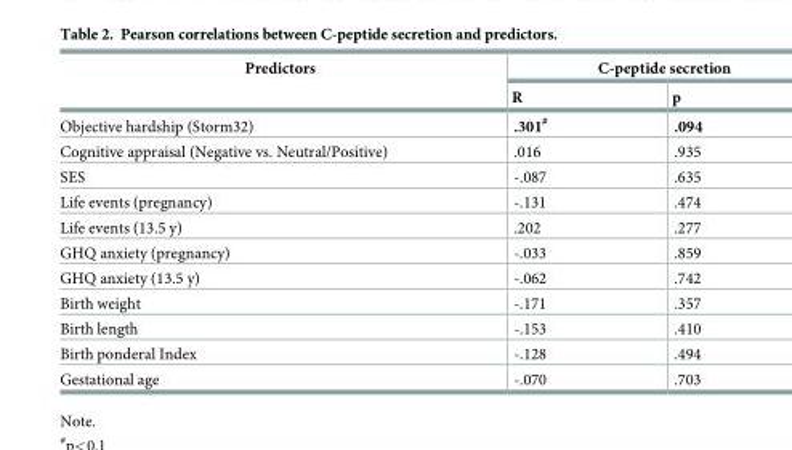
<table><thead><tr><td rowspan="2">Predictors</td><td colspan="2">C-peptide secretion</td></tr><tr><td>R</td><td>p</td></tr></thead><tbody><tr><td>Objective hardship (Storm32)</td><td>.301<sup>#</sup></td><td>.094</td></tr><tr><td>Cognitive appraisal (Negative vs. Neutral/Positive)</td><td>.016</td><td>.935</td></tr><tr><td>SES</td><td>-.087</td><td>.635</td></tr><tr><td>Life events (pregnancy)</td><td>-.131</td><td>.474</td></tr><tr><td>Life events (13.5 y)</td><td>.202</td><td>.277</td></tr><tr><td>GHQ anxiety (pregnancy)</td><td>-.033</td><td>.859</td></tr><tr><td>GHQ anxiety (13.5 y)</td><td>-.062</td><td>.742</td></tr><tr><td>Birth weight</td><td>-.171</td><td>.357</td></tr><tr><td>Birth length</td><td>-.153</td><td>.410</td></tr><tr><td>Birth ponderal Index</td><td>-.128</td><td>.494</td></tr><tr><td>Gestational age</td><td>-.070</td><td>.703</td></tr></tbody></table>